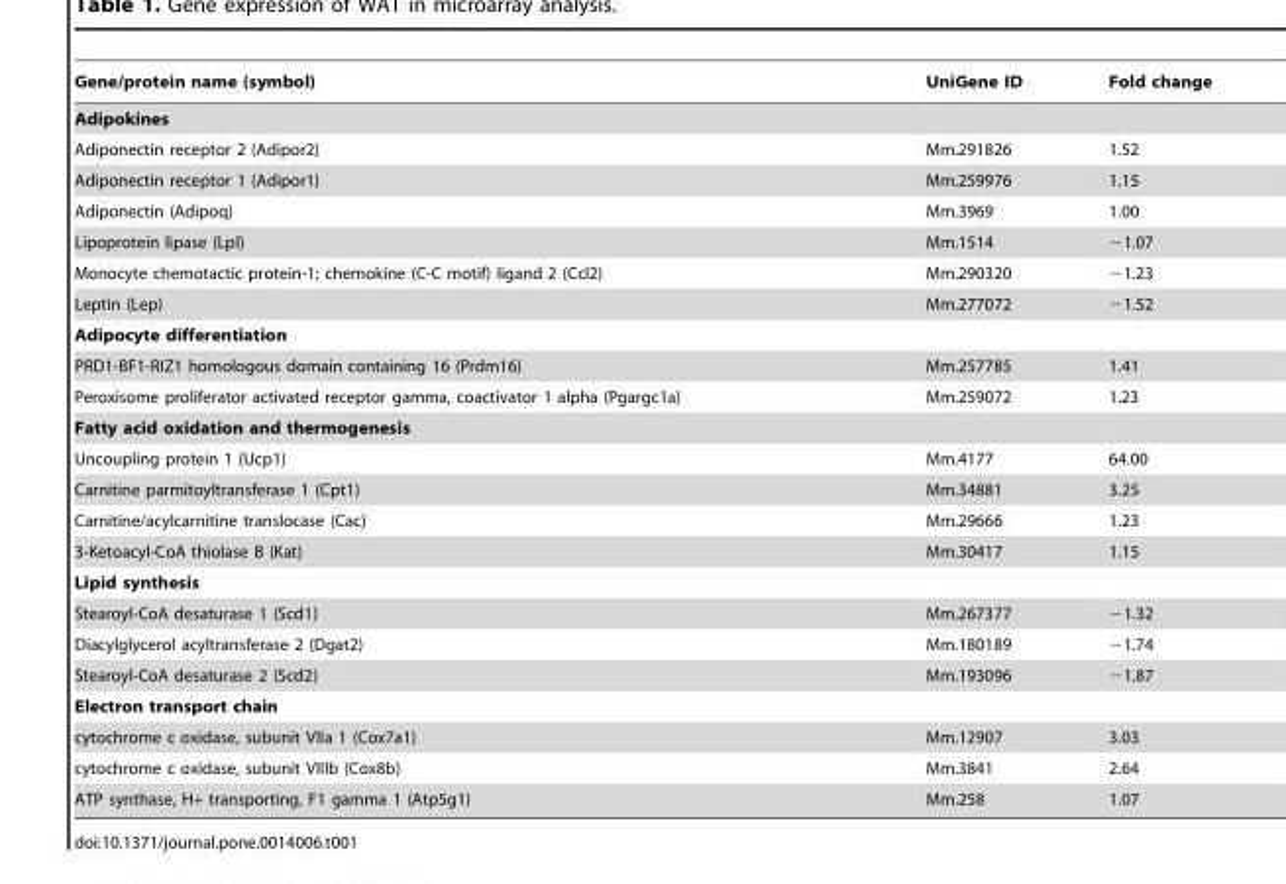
<table><thead><tr><td>Gene/protein name (symbol)</td><td>UniGene ID</td><td>Fold change</td></tr></thead><tbody><tr><td colspan="3">Adipokines</td></tr><tr><td>Adiponectin receptor 2 (Adipor2)</td><td>Mm.291826</td><td>1.52</td></tr><tr><td>Adiponectin receptor 1 (Adipor1)</td><td>Mm.259976</td><td>1.15</td></tr><tr><td>Adiponectin (Adipoq)</td><td>Mm.3969</td><td>1.00</td></tr><tr><td>Lipoprotein lipase (Lpl)</td><td>Mm.1514</td><td>−1.07</td></tr><tr><td>Monocyte chemotactic protein-1; chemokine (C-C motif) ligand 2 (Ccl2)</td><td>Mm.290320</td><td>−1.23</td></tr><tr><td>Leptin (Lep)</td><td>Mm.277072</td><td>−1.52</td></tr><tr><td colspan="3">Adipocyte differentiation</td></tr><tr><td>PRD1-BF1-RIZ1 homologous domain containing 16 (Prdm16)</td><td>Mm.257785</td><td>1.41</td></tr><tr><td>Peroxisome proliferator activated receptor gamma, coactivator 1 alpha (Pgargc1a)</td><td>Mm.259072</td><td>1.23</td></tr><tr><td colspan="3">Fatty acid oxidation and thermogenesis</td></tr><tr><td>Uncoupling protein 1 (Ucp1)</td><td>Mm.4177</td><td>64.00</td></tr><tr><td>Carnitine parmitoyltransferase 1 (Cpt1)</td><td>Mm.34881</td><td>3.25</td></tr><tr><td>Carnitine/acylcarnitine translocase (Cac)</td><td>Mm.29666</td><td>1.23</td></tr><tr><td>3-Ketoacyl-CoA thiolase B (Kat)</td><td>Mm.30417</td><td>1.15</td></tr><tr><td colspan="3">Lipid synthesis</td></tr><tr><td>Stearoyl-CoA desaturase 1 (Scd1)</td><td>Mm.267377</td><td>−1.32</td></tr><tr><td>Diacylglycerol acyltransferase 2 (Dgat2)</td><td>Mm.180189</td><td>−1.74</td></tr><tr><td>Stearoyl-CoA desaturase 2 (Scd2)</td><td>Mm.193096</td><td>−1.87</td></tr><tr><td colspan="3">Electron transport chain</td></tr><tr><td>cytochrome c oxidase, subunit VIIa 1 (Cox7a1)</td><td>Mm.12907</td><td>3.03</td></tr><tr><td>cytochrome c oxidase, subunit VIIIb (Cox8b)</td><td>Mm.3841</td><td>2.64</td></tr><tr><td>ATP synthase, H+ transporting, F1 gamma 1 (Atp5g1)</td><td>Mm.258</td><td>1.07</td></tr></tbody></table>